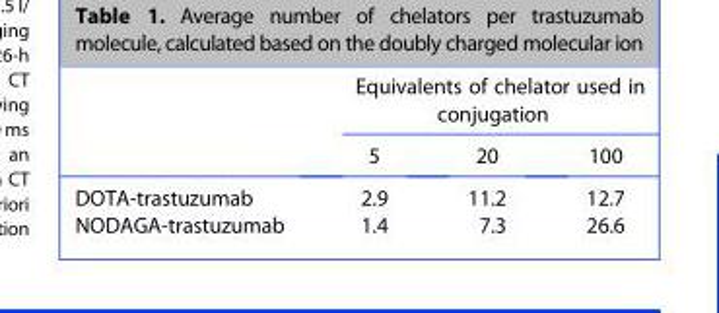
<table><thead><tr><td rowspan="2"></td><td colspan="3">Equivalents of chelator used in conjugation</td></tr><tr><td>5</td><td>20</td><td>100</td></tr></thead><tbody><tr><td>DOTA-trastuzumab</td><td>2.9</td><td>11.2</td><td>12.7</td></tr><tr><td>NODAGA-trastuzumab</td><td>1.4</td><td>7.3</td><td>26.6</td></tr></tbody></table>